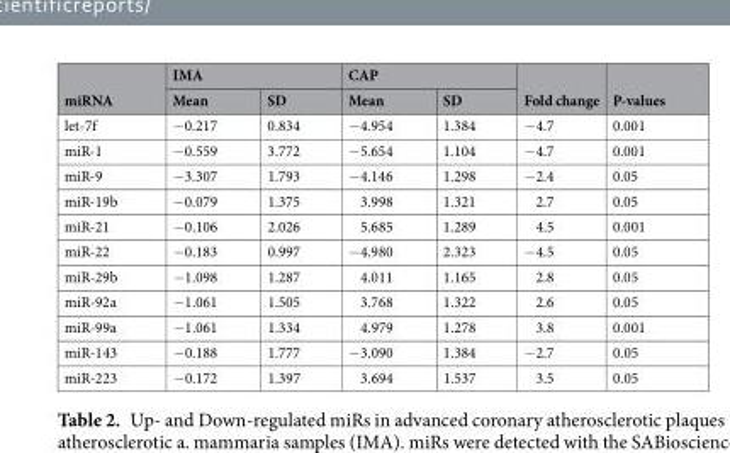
<table><thead><tr><td rowspan="2">miRNA</td><td colspan="2">IMA</td><td colspan="2">CAP</td><td rowspan="2">Fold change</td><td rowspan="2">P-values</td></tr><tr><td>Mean</td><td>SD</td><td>Mean</td><td>SD</td></tr></thead><tbody><tr><td>let-7f</td><td>−0.217</td><td>0.834</td><td>−4.954</td><td>1.384</td><td>−4.7</td><td>0.001</td></tr><tr><td>miR-1</td><td>−0.559</td><td>3.772</td><td>−5.654</td><td>1.104</td><td>−4.7</td><td>0.001</td></tr><tr><td>miR-9</td><td>−3.307</td><td>1.793</td><td>−4.146</td><td>1.298</td><td>−2.4</td><td>0.05</td></tr><tr><td>miR-19b</td><td>−0.079</td><td>1.375</td><td>3.998</td><td>1.321</td><td>2.7</td><td>0.05</td></tr><tr><td>miR-21</td><td>−0.106</td><td>2.026</td><td>5.685</td><td>1.289</td><td>4.5</td><td>0.001</td></tr><tr><td>miR-22</td><td>−0.183</td><td>0.997</td><td>−4.980</td><td>2.323</td><td>−4.5</td><td>0.05</td></tr><tr><td>miR-29b</td><td>−1.098</td><td>1.287</td><td>4.011</td><td>1.165</td><td>2.8</td><td>0.05</td></tr><tr><td>miR-92a</td><td>−1.061</td><td>1.505</td><td>3.768</td><td>1.322</td><td>2.6</td><td>0.05</td></tr><tr><td>miR-99a</td><td>−1.061</td><td>1.334</td><td>4.979</td><td>1.278</td><td>3.8</td><td>0.001</td></tr><tr><td>miR-143</td><td>−0.188</td><td>1.777</td><td>−3.090</td><td>1.384</td><td>−2.7</td><td>0.05</td></tr><tr><td>miR-223</td><td>−0.172</td><td>1.397</td><td>3.694</td><td>1.537</td><td>3.5</td><td>0.05</td></tr></tbody></table>